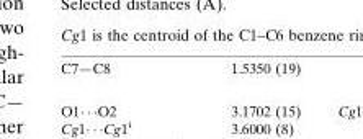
<table><tbody><tr><td>C7—C8</td><td>1.5350 (19)</td></tr></tbody></table>